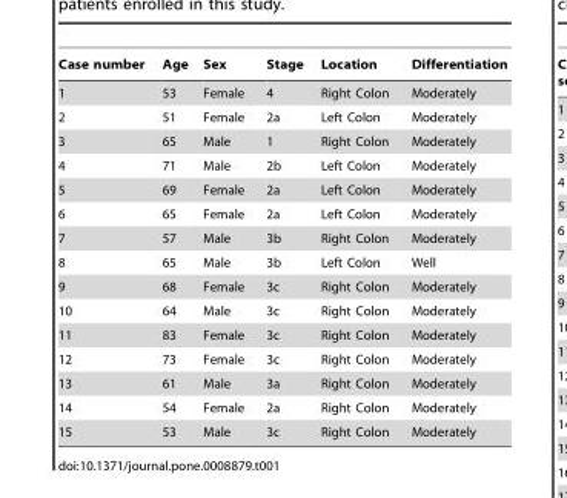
<table><thead><tr><td>Case number</td><td>Age</td><td>Sex</td><td>Stage</td><td>Location</td><td>Differentiation</td></tr></thead><tbody><tr><td>1</td><td>53</td><td>Female</td><td>4</td><td>Right Colon</td><td>Moderately</td></tr><tr><td>2</td><td>51</td><td>Female</td><td>2a</td><td>Left Colon</td><td>Moderately</td></tr><tr><td>3</td><td>65</td><td>Male</td><td>1</td><td>Right Colon</td><td>Moderately</td></tr><tr><td>4</td><td>71</td><td>Male</td><td>2b</td><td>Left Colon</td><td>Moderately</td></tr><tr><td>5</td><td>69</td><td>Female</td><td>2a</td><td>Left Colon</td><td>Moderately</td></tr><tr><td>6</td><td>65</td><td>Female</td><td>2a</td><td>Left Colon</td><td>Moderately</td></tr><tr><td>7</td><td>57</td><td>Male</td><td>3b</td><td>Right Colon</td><td>Moderately</td></tr><tr><td>8</td><td>65</td><td>Male</td><td>3b</td><td>Left Colon</td><td>Well</td></tr><tr><td>9</td><td>68</td><td>Female</td><td>3c</td><td>Right Colon</td><td>Moderately</td></tr><tr><td>10</td><td>64</td><td>Male</td><td>3c</td><td>Right Colon</td><td>Moderately</td></tr><tr><td>11</td><td>83</td><td>Female</td><td>3c</td><td>Right Colon</td><td>Moderately</td></tr><tr><td>12</td><td>73</td><td>Female</td><td>3c</td><td>Right Colon</td><td>Moderately</td></tr><tr><td>13</td><td>61</td><td>Male</td><td>3a</td><td>Right Colon</td><td>Moderately</td></tr><tr><td>14</td><td>54</td><td>Female</td><td>2a</td><td>Right Colon</td><td>Moderately</td></tr><tr><td>15</td><td>53</td><td>Male</td><td>3c</td><td>Right Colon</td><td>Moderately</td></tr></tbody></table>